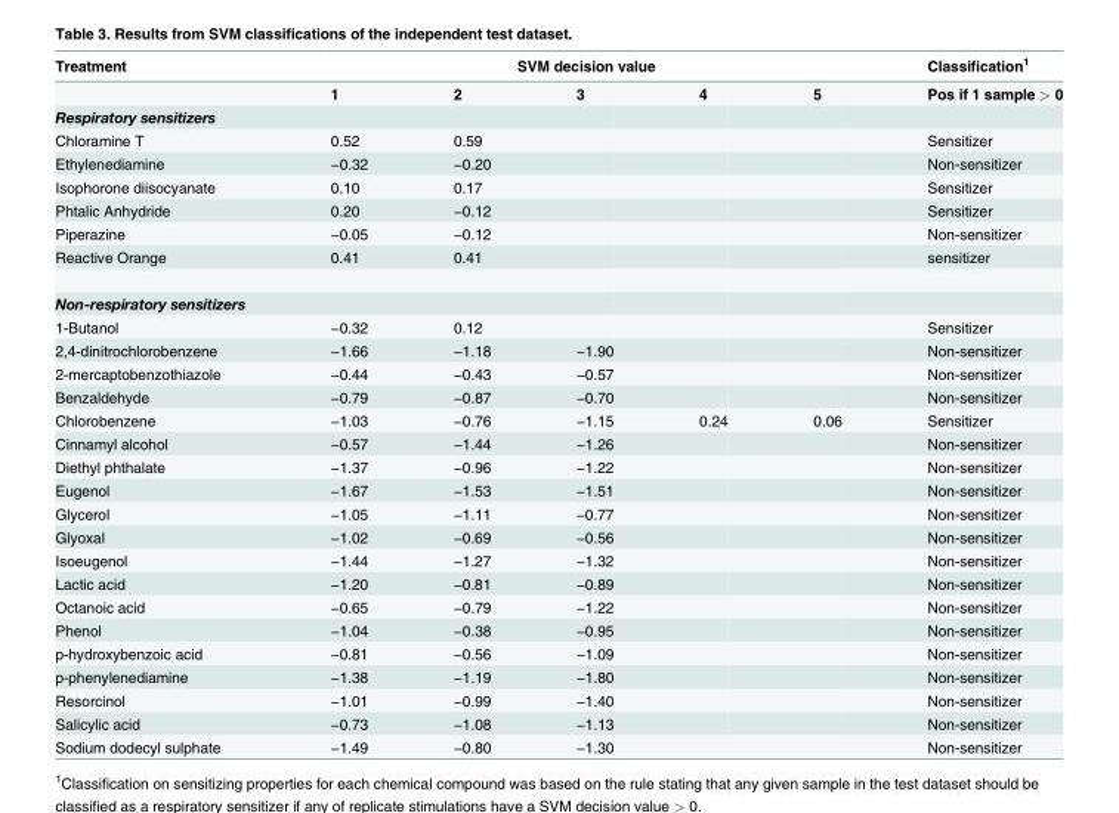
<table><thead><tr><td rowspan="2">Treatment</td><td colspan="5">SVM decision value</td><td rowspan="2">Classification<sup>1</sup> Pos if 1 sample &gt; 0</td></tr><tr><td>1</td><td>2</td><td>3</td><td>4</td><td>5</td></tr></thead><tbody><tr><td colspan="7">Respiratory sensitizers</td></tr><tr><td>Chloramine T</td><td>0.52</td><td>0.59</td><td></td><td></td><td></td><td>Sensitizer</td></tr><tr><td>Ethylenediamine</td><td>−0.32</td><td>−0.20</td><td></td><td></td><td></td><td>Non-sensitizer</td></tr><tr><td>Isophorone diisocyanate</td><td>0.10</td><td>0.17</td><td></td><td></td><td></td><td>Sensitizer</td></tr><tr><td>Phtalic Anhydride</td><td>0.20</td><td>−0.12</td><td></td><td></td><td></td><td>Sensitizer</td></tr><tr><td>Piperazine</td><td>−0.05</td><td>−0.12</td><td></td><td></td><td></td><td>Non-sensitizer</td></tr><tr><td>Reactive Orange</td><td>0.41</td><td>0.41</td><td></td><td></td><td></td><td>sensitizer</td></tr><tr><td colspan="7">Non-respiratory sensitizers</td></tr><tr><td>1-Butanol</td><td>−0.32</td><td>0.12</td><td></td><td></td><td></td><td>Sensitizer</td></tr><tr><td>2,4-dinitrochlorobenzene</td><td>−1.66</td><td>−1.18</td><td>−1.90</td><td></td><td></td><td>Non-sensitizer</td></tr><tr><td>2-mercaptobenzothiazole</td><td>−0.44</td><td>−0.43</td><td>−0.57</td><td></td><td></td><td>Non-sensitizer</td></tr><tr><td>Benzaldehyde</td><td>−0.79</td><td>−0.87</td><td>−0.70</td><td></td><td></td><td>Non-sensitizer</td></tr><tr><td>Chlorobenzene</td><td>−1.03</td><td>−0.76</td><td>−1.15</td><td>0.24</td><td>0.06</td><td>Sensitizer</td></tr><tr><td>Cinnamyl alcohol</td><td>−0.57</td><td>−1.44</td><td>−1.26</td><td></td><td></td><td>Non-sensitizer</td></tr><tr><td>Diethyl phthalate</td><td>−1.37</td><td>−0.96</td><td>−1.22</td><td></td><td></td><td>Non-sensitizer</td></tr><tr><td>Eugenol</td><td>−1.67</td><td>−1.53</td><td>−1.51</td><td></td><td></td><td>Non-sensitizer</td></tr><tr><td>Glycerol</td><td>−1.05</td><td>−1.11</td><td>−0.77</td><td></td><td></td><td>Non-sensitizer</td></tr><tr><td>Glyoxal</td><td>−1.02</td><td>−0.69</td><td>−0.56</td><td></td><td></td><td>Non-sensitizer</td></tr><tr><td>Isoeugenol</td><td>−1.44</td><td>−1.27</td><td>−1.32</td><td></td><td></td><td>Non-sensitizer</td></tr><tr><td>Lactic acid</td><td>−1.20</td><td>−0.81</td><td>−0.89</td><td></td><td></td><td>Non-sensitizer</td></tr><tr><td>Octanoic acid</td><td>−0.65</td><td>−0.79</td><td>−1.22</td><td></td><td></td><td>Non-sensitizer</td></tr><tr><td>Phenol</td><td>−1.04</td><td>−0.38</td><td>−0.95</td><td></td><td></td><td>Non-sensitizer</td></tr><tr><td>p-hydroxybenzoic acid</td><td>−0.81</td><td>−0.56</td><td>−1.09</td><td></td><td></td><td>Non-sensitizer</td></tr><tr><td>p-phenylenediamine</td><td>−1.38</td><td>−1.19</td><td>−1.80</td><td></td><td></td><td>Non-sensitizer</td></tr><tr><td>Resorcinol</td><td>−1.01</td><td>−0.99</td><td>−1.40</td><td></td><td></td><td>Non-sensitizer</td></tr><tr><td>Salicylic acid</td><td>−0.73</td><td>−1.08</td><td>−1.13</td><td></td><td></td><td>Non-sensitizer</td></tr><tr><td>Sodium dodecyl sulphate</td><td>−1.49</td><td>−0.80</td><td>−1.30</td><td></td><td></td><td>Non-sensitizer</td></tr></tbody></table>